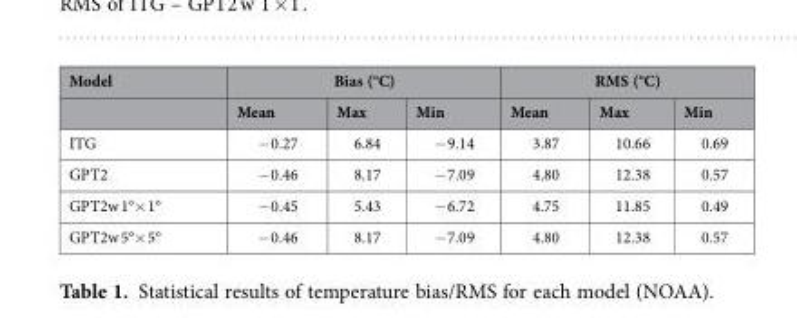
<table><thead><tr><td rowspan="2">Model</td><td colspan="3">Bias (°C)</td><td colspan="3">RMS (°C)</td></tr><tr><td>Mean</td><td>Max</td><td>Min</td><td>Mean</td><td>Max</td><td>Min</td></tr></thead><tbody><tr><td>ITG</td><td>− 0.27</td><td>6.84</td><td>− 9.14</td><td>3.87</td><td>10.66</td><td>0.69</td></tr><tr><td>GPT2</td><td>− 0.46</td><td>8.17</td><td>− 7.09</td><td>4.80</td><td>12.38</td><td>0.57</td></tr><tr><td>GPT2w 1°× 1°</td><td>− 0.45</td><td>5.43</td><td>− 6.72</td><td>4.75</td><td>11.85</td><td>0.49</td></tr><tr><td>GPT2w 5°× 5°</td><td>− 0.46</td><td>8.17</td><td>− 7.09</td><td>4.80</td><td>12.38</td><td>0.57</td></tr></tbody></table>